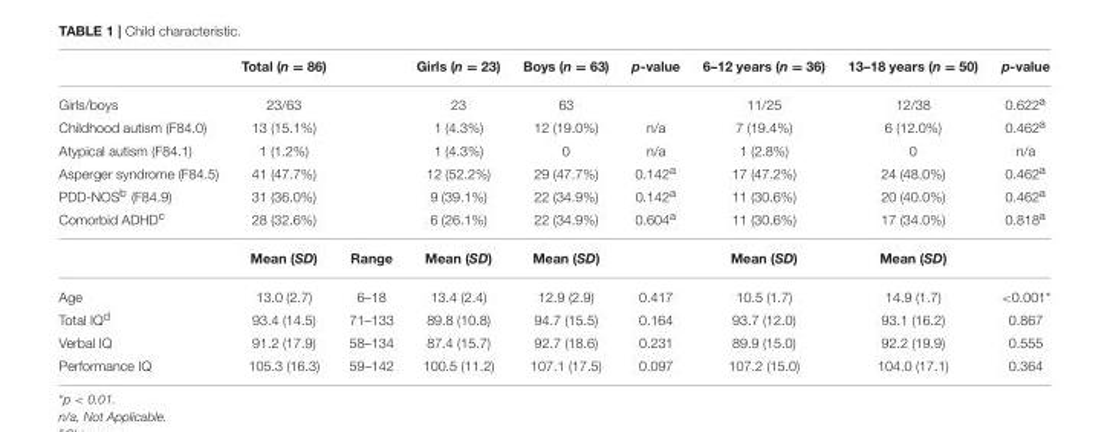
<table><thead><tr><td></td><td>Total (n = 86)</td><td></td><td>Girls (n = 23)</td><td>Boys (n = 63)</td><td>p-value</td><td>6–12 years (n = 36)</td><td>13–18 years (n = 50)</td><td>p-value</td></tr></thead><tbody><tr><td>Girls/boys</td><td>23/63</td><td></td><td>23</td><td>63</td><td></td><td>11/25</td><td>12/38</td><td>0.622<sup>a</sup></td></tr><tr><td>Childhood autism (F84.0)</td><td>13 (15.1%)</td><td></td><td>1 (4.3%)</td><td>12 (19.0%)</td><td>n/a</td><td>7 (19.4%)</td><td>6 (12.0%)</td><td>0.462<sup>a</sup></td></tr><tr><td>Atypical autism (F84.1)</td><td>1 (1.2%)</td><td></td><td>1 (4.3%)</td><td>0</td><td>n/a</td><td>1 (2.8%)</td><td>0</td><td>n/a</td></tr><tr><td>Asperger syndrome (F84.5)</td><td>41 (47.7%)</td><td></td><td>12 (52.2%)</td><td>29 (47.7%)</td><td>0.142<sup>a</sup></td><td>17 (47.2%)</td><td>24 (48.0%)</td><td>0.462<sup>a</sup></td></tr><tr><td>PDD-NOS<sup>b</sup> (F84.9)</td><td>31 (36.0%)</td><td></td><td>9 (39.1%)</td><td>22 (34.9%)</td><td>0.142<sup>a</sup></td><td>11 (30.6%)</td><td>20 (40.0%)</td><td>0.462<sup>a</sup></td></tr><tr><td rowspan="2">Comorbid ADHD<sup>c</sup></td><td>28 (32.6%)</td><td></td><td>6 (26.1%)</td><td>22 (34.9%)</td><td>0.604<sup>a</sup></td><td>11 (30.6%)</td><td>17 (34.0%)</td><td>0.818<sup>a</sup></td></tr><tr><td>Mean (SD)</td><td>Range</td><td>Mean (SD)</td><td>Mean (SD)</td><td></td><td>Mean (SD)</td><td>Mean (SD)</td><td></td></tr><tr><td>Age</td><td>13.0 (2.7)</td><td>6–18</td><td>13.4 (2.4)</td><td>12.9 (2.9)</td><td>0.417</td><td>10.5 (1.7)</td><td>14.9 (1.7)</td><td>&lt;0.001*</td></tr><tr><td>Total IQ<sup>d</sup></td><td>93.4 (14.5)</td><td>71–133</td><td>89.8 (10.8)</td><td>94.7 (15.5)</td><td>0.164</td><td>93.7 (12.0)</td><td>93.1 (16.2)</td><td>0.867</td></tr><tr><td>Verbal IQ</td><td>91.2 (17.9)</td><td>58–134</td><td>87.4 (15.7)</td><td>92.7 (18.6)</td><td>0.231</td><td>89.9 (15.0)</td><td>92.2 (19.9)</td><td>0.555</td></tr><tr><td>Performance IQ</td><td>105.3 (16.3)</td><td>59–142</td><td>100.5 (11.2)</td><td>107.1 (17.5)</td><td>0.097</td><td>107.2 (15.0)</td><td>104.0 (17.1)</td><td>0.364</td></tr></tbody></table>